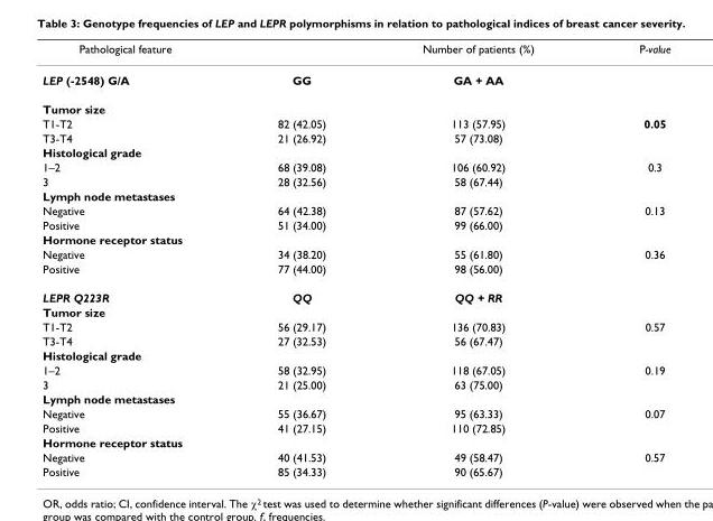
<table><thead><tr><td>Pathological feature</td><td></td><td>Number of patients (%)</td><td>P-value</td></tr></thead><tbody><tr><td>LEP (-2548) G/A</td><td>GG</td><td>GA + AA</td><td></td></tr><tr><td colspan="4">Tumor size</td></tr><tr><td>T1-T2</td><td>82 (42.05)</td><td>113 (57.95)</td><td>0.05</td></tr><tr><td>T3-T4</td><td>21 (26.92)</td><td>57 (73.08)</td><td></td></tr><tr><td colspan="4">Histological grade</td></tr><tr><td>1–2</td><td>68 (39.08)</td><td>106 (60.92)</td><td>0.3</td></tr><tr><td>3</td><td>28 (32.56)</td><td>58 (67.44)</td><td></td></tr><tr><td colspan="4">Lymph node metastases</td></tr><tr><td>Negative</td><td>64 (42.38)</td><td>87 (57.62)</td><td>0.13</td></tr><tr><td>Positive</td><td>51 (34.00)</td><td>99 (66.00)</td><td></td></tr><tr><td colspan="4">Hormone receptor status</td></tr><tr><td>Negative</td><td>34 (38.20)</td><td>55 (61.80)</td><td>0.36</td></tr><tr><td>Positive</td><td>77 (44.00)</td><td>98 (56.00)</td><td></td></tr><tr><td>LEPR Q223R</td><td>QQ</td><td>QQ + RR</td><td></td></tr><tr><td colspan="4">Tumor size</td></tr><tr><td>T1-T2</td><td>56 (29.17)</td><td>136 (70.83)</td><td>0.57</td></tr><tr><td>T3-T4</td><td>27 (32.53)</td><td>56 (67.47)</td><td></td></tr><tr><td colspan="4">Histological grade</td></tr><tr><td>1–2</td><td>58 (32.95)</td><td>118 (67.05)</td><td>0.19</td></tr><tr><td>3</td><td>21 (25.00)</td><td>63 (75.00)</td><td></td></tr><tr><td colspan="4">Lymph node metastases</td></tr><tr><td>Negative</td><td>55 (36.67)</td><td>95 (63.33)</td><td>0.07</td></tr><tr><td>Positive</td><td>41 (27.15)</td><td>110 (72.85)</td><td></td></tr><tr><td colspan="4">Hormone receptor status</td></tr><tr><td>Negative</td><td>40 (41.53)</td><td>49 (58.47)</td><td>0.57</td></tr><tr><td>Positive</td><td>85 (34.33)</td><td>90 (65.67)</td><td></td></tr></tbody></table>